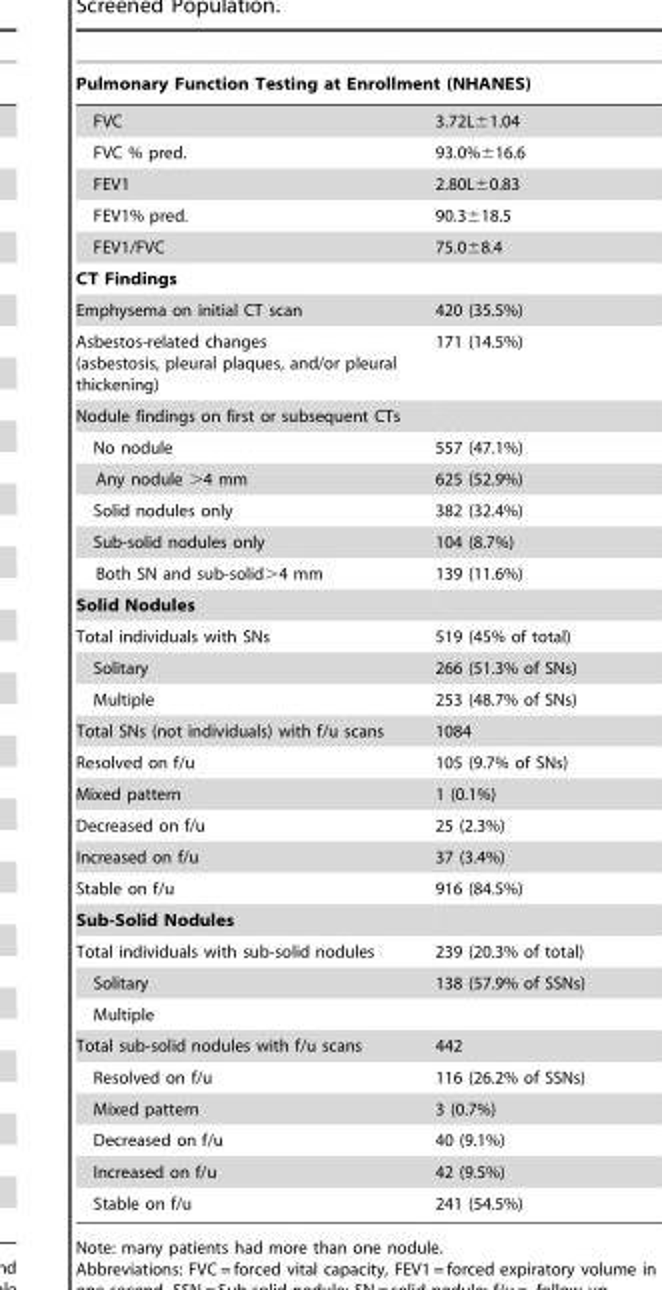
<table><thead><tr><td colspan="2">Pulmonary Function Testing at Enrollment (NHANES)</td></tr><tr><td>FVC</td><td>3.72L±1.04</td></tr></thead><tbody><tr><td>FVC % pred.</td><td>93.0%±16.6</td></tr><tr><td>FEV1</td><td>2.80L±0.83</td></tr><tr><td>FEV1% pred.</td><td>90.3±18.5</td></tr><tr><td>FEV1/FVC</td><td>75.0±8.4</td></tr><tr><td colspan="2">CT Findings</td></tr><tr><td>Emphysema on initial CT scan</td><td>420 (35.5%)</td></tr><tr><td>Asbestos-related changes (asbestosis, pleural plaques, and/or pleural thickening)</td><td>171 (14.5%)</td></tr><tr><td colspan="2">Nodule findings on first or subsequent CTs</td></tr><tr><td>No nodule</td><td>557 (47.1%)</td></tr><tr><td>Any nodule &gt;4 mm</td><td>625 (52.9%)</td></tr><tr><td>Solid nodules only</td><td>382 (32.4%)</td></tr><tr><td>Sub-solid nodules only</td><td>104 (8.7%)</td></tr><tr><td>Both SN and sub-solid&gt;4 mm</td><td>139 (11.6%)</td></tr><tr><td colspan="2">Solid Nodules</td></tr><tr><td>Total individuals with SNs</td><td>519 (45% of total)</td></tr><tr><td>Solitary</td><td>266 (51.3% of SNs)</td></tr><tr><td>Multiple</td><td>253 (48.7% of SNs)</td></tr><tr><td>Total SNs (not individuals) with f/u scans</td><td>1084</td></tr><tr><td>Resolved on f/u</td><td>105 (9.7% of SNs)</td></tr><tr><td>Mixed pattern</td><td>1 (0.1%)</td></tr><tr><td>Decreased on f/u</td><td>25 (2.3%)</td></tr><tr><td>Increased on f/u</td><td>37 (3.4%)</td></tr><tr><td>Stable on f/u</td><td>916 (84.5%)</td></tr><tr><td colspan="2">Sub-Solid Nodules</td></tr><tr><td>Total individuals with sub-solid nodules</td><td>239 (20.3% of total)</td></tr><tr><td>Solitary</td><td>138 (57.9% of SSNs)</td></tr><tr><td colspan="2">Multiple</td></tr><tr><td>Total sub-solid nodules with f/u scans</td><td>442</td></tr><tr><td>Resolved on f/u</td><td>116 (26.2% of SSNs)</td></tr><tr><td>Mixed pattern</td><td>3 (0.7%)</td></tr><tr><td>Decreased on f/u</td><td>40 (9.1%)</td></tr><tr><td>Increased on f/u</td><td>42 (9.5%)</td></tr><tr><td>Stable on f/u</td><td>241 (54.5%)</td></tr></tbody></table>